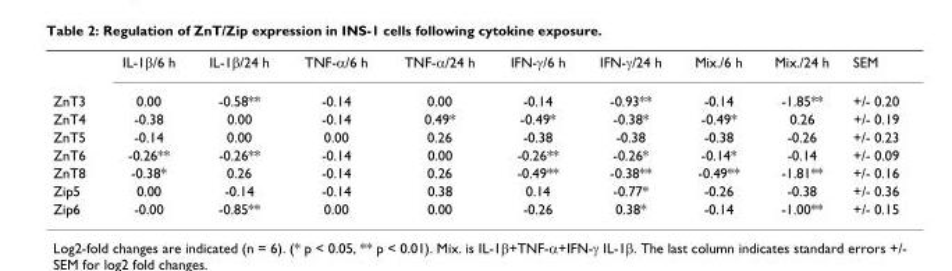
<table><thead><tr><td></td><td>IL-1β/6 h</td><td>IL-1β/24 h</td><td>TNF-α/6 h</td><td>TNF-α/24 h</td><td>IFN-γ/6 h</td><td>IFN-γ/24 h</td><td>Mix./6 h</td><td>Mix./24 h</td><td>SEM</td></tr></thead><tbody><tr><td>ZnT3</td><td>0.00</td><td>-0.58**</td><td>-0.14</td><td>0.00</td><td>-0.14</td><td>-0.93**</td><td>-0.14</td><td>-1.85**</td><td>+/- 0.20</td></tr><tr><td>ZnT4</td><td>-0.38</td><td>0.00</td><td>-0.14</td><td>0.49*</td><td>-0.49*</td><td>-0.38*</td><td>-0.49*</td><td>0.26</td><td>+/- 0.19</td></tr><tr><td>ZnT5</td><td>-0.14</td><td>0.00</td><td>0.00</td><td>0.26</td><td>-0.38</td><td>-0.38</td><td>-0.38</td><td>-0.26</td><td>+/- 0.23</td></tr><tr><td>ZnT6</td><td>-0.26**</td><td>-0.26**</td><td>-0.14</td><td>0.00</td><td>-0.26**</td><td>-0.26*</td><td>-0.14*</td><td>-0.14</td><td>+/- 0.09</td></tr><tr><td>ZnT8</td><td>-0.38*</td><td>0.26</td><td>-0.14</td><td>0.26</td><td>-0.49**</td><td>-0.38**</td><td>-0.49**</td><td>-1.81**</td><td>+/- 0.16</td></tr><tr><td>Zip5</td><td>0.00</td><td>-0.14</td><td>-0.14</td><td>0.38</td><td>0.14</td><td>-0.77*</td><td>-0.26</td><td>-0.38</td><td>+/- 0.36</td></tr><tr><td>Zip6</td><td>-0.00</td><td>-0.85**</td><td>0.00</td><td>0.00</td><td>-0.26</td><td>0.38*</td><td>-0.14</td><td>-1.00**</td><td>+/- 0.15</td></tr></tbody></table>